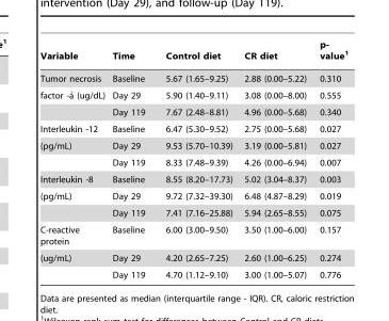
<table><thead><tr><td>Variable</td><td>Time</td><td>Control diet</td><td>CR diet</td><td>p- value<sup>1</sup></td></tr></thead><tbody><tr><td>Tumor necrosis</td><td>Baseline</td><td>5.67 (1.65–9.25)</td><td>2.88 (0.00–5.22)</td><td>0.310</td></tr><tr><td rowspan="2">factor -a´ (ug/dL)</td><td>Day 29</td><td>5.90 (1.40–9.11)</td><td>3.08 (0.00–8.00)</td><td>0.555</td></tr><tr><td>Day 119</td><td>7.67 (2.48–8.81)</td><td>4.96 (0.00–5.68)</td><td>0.340</td></tr><tr><td>Interleukin -12</td><td>Baseline</td><td>6.47 (5.30–9.52)</td><td>2.75 (0.00–5.68)</td><td>0.027</td></tr><tr><td rowspan="2">(pg/mL)</td><td>Day 29</td><td>9.53 (5.70–10.39)</td><td>3.19 (0.00–5.81)</td><td>0.027</td></tr><tr><td>Day 119</td><td>8.33 (7.48–9.39)</td><td>4.26 (0.00–6.94)</td><td>0.007</td></tr><tr><td>Interleukin -8</td><td>Baseline</td><td>8.55 (8.20–17.73)</td><td>5.02 (3.04–8.37)</td><td>0.003</td></tr><tr><td rowspan="2">(pg/mL)</td><td>Day 29</td><td>9.72 (7.32–39.30)</td><td>6.48 (4.87–8.29)</td><td>0.019</td></tr><tr><td>Day 119</td><td>7.41 (7.16–25.88)</td><td>5.94 (2.65–8.55)</td><td>0.075</td></tr><tr><td>C-reactive protein</td><td>Baseline</td><td>6.00 (3.00–9.50)</td><td>3.50 (1.00–6.00)</td><td>0.157</td></tr><tr><td rowspan="2">(ug/mL)</td><td>Day 29</td><td>4.20 (2.65–7.25)</td><td>2.60 (1.00–6.25)</td><td>0.274</td></tr><tr><td>Day 119</td><td>4.70 (1.12–9.10)</td><td>3.00 (1.00–5.07)</td><td>0.776</td></tr></tbody></table>